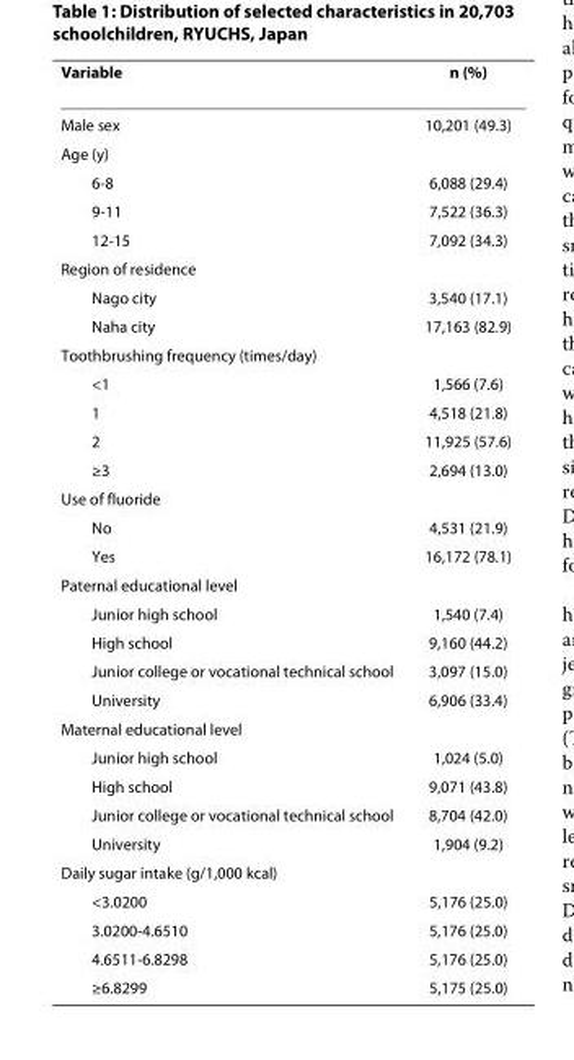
<table><thead><tr><td>Variable</td><td>n (%)</td></tr></thead><tbody><tr><td>Male sex</td><td>10,201 (49.3)</td></tr><tr><td colspan="2">Age (y)</td></tr><tr><td>6-8</td><td>6,088 (29.4)</td></tr><tr><td>9-11</td><td>7,522 (36.3)</td></tr><tr><td>12-15</td><td>7,092 (34.3)</td></tr><tr><td colspan="2">Region of residence</td></tr><tr><td>Nago city</td><td>3,540 (17.1)</td></tr><tr><td>Naha city</td><td>17,163 (82.9)</td></tr><tr><td colspan="2">Toothbrushing frequency (times/day)</td></tr><tr><td>&lt;1</td><td>1,566 (7.6)</td></tr><tr><td>1</td><td>4,518 (21.8)</td></tr><tr><td>2</td><td>11,925 (57.6)</td></tr><tr><td>≥3</td><td>2,694 (13.0)</td></tr><tr><td colspan="2">Use of fluoride</td></tr><tr><td>No</td><td>4,531 (21.9)</td></tr><tr><td>Yes</td><td>16,172 (78.1)</td></tr><tr><td colspan="2">Paternal educational level</td></tr><tr><td>Junior high school</td><td>1,540 (7.4)</td></tr><tr><td>High school</td><td>9,160 (44.2)</td></tr><tr><td>Junior college or vocational technical school</td><td>3,097 (15.0)</td></tr><tr><td>University</td><td>6,906 (33.4)</td></tr><tr><td colspan="2">Maternal educational level</td></tr><tr><td>Junior high school</td><td>1,024 (5.0)</td></tr><tr><td>High school</td><td>9,071 (43.8)</td></tr><tr><td>Junior college or vocational technical school</td><td>8,704 (42.0)</td></tr><tr><td>University</td><td>1,904 (9.2)</td></tr><tr><td colspan="2">Daily sugar intake (g/1,000 kcal)</td></tr><tr><td>&lt;3.0200</td><td>5,176 (25.0)</td></tr><tr><td>3.0200-4.6510</td><td>5,176 (25.0)</td></tr><tr><td>4.6511-6.8298</td><td>5,176 (25.0)</td></tr><tr><td>≥6.8299</td><td>5,175 (25.0)</td></tr></tbody></table>